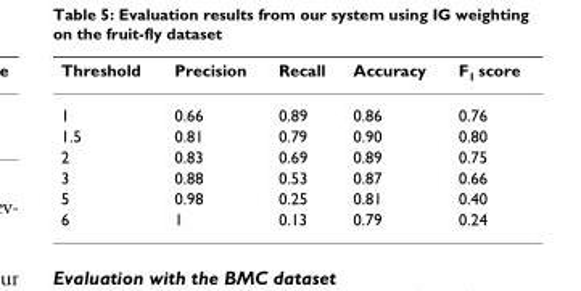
<table><thead><tr><td>Threshold</td><td>Precision</td><td>Recall</td><td>Accuracy</td><td>F<sub>1</sub> score</td></tr></thead><tbody><tr><td>1</td><td>0.66</td><td>0.89</td><td>0.86</td><td>0.76</td></tr><tr><td>1.5</td><td>0.81</td><td>0.79</td><td>0.90</td><td>0.80</td></tr><tr><td>2</td><td>0.83</td><td>0.69</td><td>0.89</td><td>0.75</td></tr><tr><td>3</td><td>0.88</td><td>0.53</td><td>0.87</td><td>0.66</td></tr><tr><td>5</td><td>0.98</td><td>0.25</td><td>0.81</td><td>0.40</td></tr><tr><td>6</td><td>1</td><td>0.13</td><td>0.79</td><td>0.24</td></tr></tbody></table>